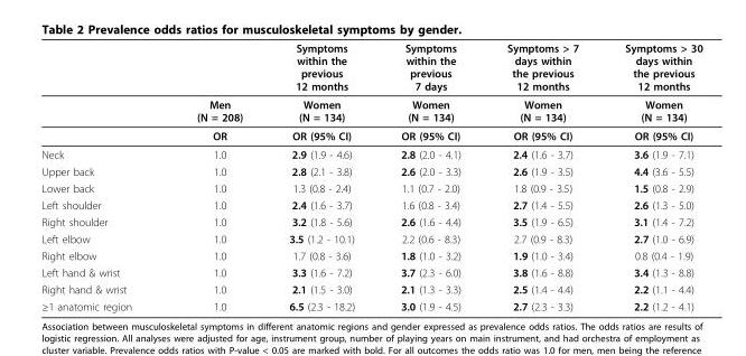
<table><thead><tr><td></td><td></td><td>Symptoms within the previous 12 months</td><td>Symptoms within the previous 7 days</td><td>Symptoms &gt; 7 days within the previous 12 months</td><td>Symptoms &gt; 30 days within the previous 12 months</td></tr></thead><tbody><tr><td></td><td>Men (N = 208)</td><td>Women (N = 134)</td><td>Women (N = 134)</td><td>Women (N = 134)</td><td>Women (N = 134)</td></tr><tr><td></td><td>OR</td><td>OR (95% CI)</td><td>OR (95% CI)</td><td>OR (95% CI)</td><td>OR (95% CI)</td></tr><tr><td>Neck</td><td>1.0</td><td>2.9 (1.9 - 4.6)</td><td>2.8 (2.0 - 4.1)</td><td>2.4 (1.6 - 3.7)</td><td>3.6 (1.9 - 7.1)</td></tr><tr><td>Upper back</td><td>1.0</td><td>2.8 (2.1 - 3.8)</td><td>2.6 (2.0 - 3.3)</td><td>2.6 (1.9 - 3.5)</td><td>4.4 (3.6 - 5.5)</td></tr><tr><td>Lower back</td><td>1.0</td><td>1.3 (0.8 - 2.4)</td><td>1.1 (0.7 - 2.0)</td><td>1.8 (0.9 - 3.5)</td><td>1.5 (0.8 - 2.9)</td></tr><tr><td>Left shoulder</td><td>1.0</td><td>2.4 (1.6 - 3.7)</td><td>1.6 (0.8 - 3.4)</td><td>2.7 (1.4 - 5.5)</td><td>2.6 (1.3 - 5.0)</td></tr><tr><td>Right shoulder</td><td>1.0</td><td>3.2 (1.8 - 5.6)</td><td>2.6 (1.6 - 4.4)</td><td>3.5 (1.9 - 6.5)</td><td>3.1 (1.4 - 7.2)</td></tr><tr><td>Left elbow</td><td>1.0</td><td>3.5 (1.2 - 10.1)</td><td>2.2 (0.6 - 8.3)</td><td>2.7 (0.9 - 8.3)</td><td>2.7 (1.0 - 6.9)</td></tr><tr><td>Right elbow</td><td>1.0</td><td>1.7 (0.8 - 3.6)</td><td>1.8 (1.0 - 3.2)</td><td>1.9 (1.0 - 3.4)</td><td>0.8 (0.4 - 1.9)</td></tr><tr><td>Left hand &amp; wrist</td><td>1.0</td><td>3.3 (1.6 - 7.2)</td><td>3.7 (2.3 - 6.0)</td><td>3.8 (1.6 - 8.8)</td><td>3.4 (1.3 - 8.8)</td></tr><tr><td>Right hand &amp; wrist</td><td>1.0</td><td>2.1 (1.5 - 3.0)</td><td>2.1 (1.3 - 3.3)</td><td>2.5 (1.4 - 4.4)</td><td>2.2 (1.1 - 4.4)</td></tr><tr><td>≥1 anatomic region</td><td>1.0</td><td>6.5 (2.3 - 18.2)</td><td>3.0 (1.9 - 4.5)</td><td>2.7 (2.3 - 3.3)</td><td>2.2 (1.2 - 4.1)</td></tr></tbody></table>